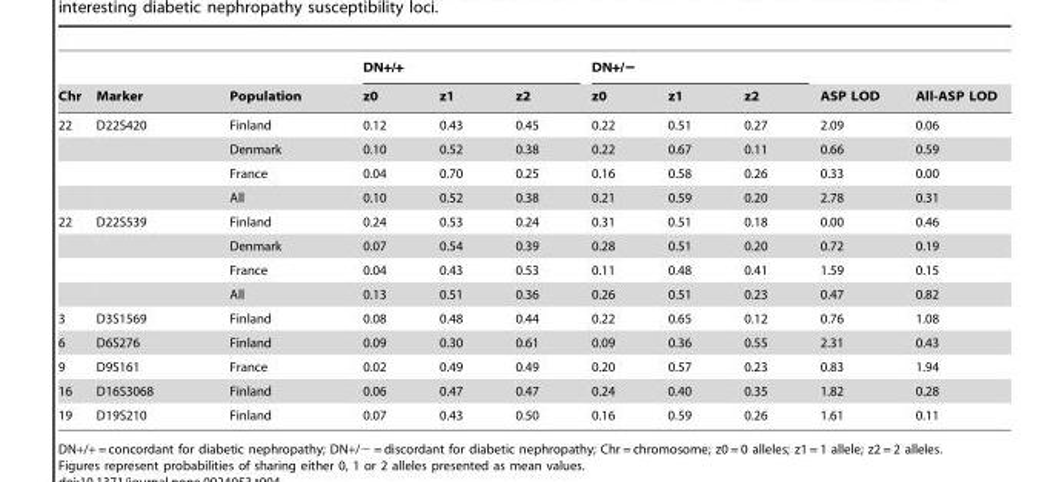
<table><thead><tr><td rowspan="2">Chr</td><td rowspan="2">Marker</td><td rowspan="2">Population</td><td colspan="3">DN+/+</td><td colspan="3">DN+/−</td><td rowspan="2">ASP LOD</td><td rowspan="2">All-ASP LOD</td></tr><tr><td>z0</td><td>z1</td><td>z2</td><td>z0</td><td>z1</td><td>z2</td></tr></thead><tbody><tr><td rowspan="4">22</td><td>D22S420</td><td>Finland</td><td>0.12</td><td>0.43</td><td>0.45</td><td>0.22</td><td>0.51</td><td>0.27</td><td>2.09</td><td>0.06</td></tr><tr><td></td><td>Denmark</td><td>0.10</td><td>0.52</td><td>0.38</td><td>0.22</td><td>0.67</td><td>0.11</td><td>0.66</td><td>0.59</td></tr><tr><td></td><td>France</td><td>0.04</td><td>0.70</td><td>0.25</td><td>0.16</td><td>0.58</td><td>0.26</td><td>0.33</td><td>0.00</td></tr><tr><td></td><td>All</td><td>0.10</td><td>0.52</td><td>0.38</td><td>0.21</td><td>0.59</td><td>0.20</td><td>2.78</td><td>0.31</td></tr><tr><td rowspan="4">22</td><td>D22S539</td><td>Finland</td><td>0.24</td><td>0.53</td><td>0.24</td><td>0.31</td><td>0.51</td><td>0.18</td><td>0.00</td><td>0.46</td></tr><tr><td></td><td>Denmark</td><td>0.07</td><td>0.54</td><td>0.39</td><td>0.28</td><td>0.51</td><td>0.20</td><td>0.72</td><td>0.19</td></tr><tr><td></td><td>France</td><td>0.04</td><td>0.43</td><td>0.53</td><td>0.11</td><td>0.48</td><td>0.41</td><td>1.59</td><td>0.15</td></tr><tr><td></td><td>All</td><td>0.13</td><td>0.51</td><td>0.36</td><td>0.26</td><td>0.51</td><td>0.23</td><td>0.47</td><td>0.82</td></tr><tr><td>3</td><td>D3S1569</td><td>Finland</td><td>0.08</td><td>0.48</td><td>0.44</td><td>0.22</td><td>0.65</td><td>0.12</td><td>0.76</td><td>1.08</td></tr><tr><td>6</td><td>D6S276</td><td>Finland</td><td>0.09</td><td>0.30</td><td>0.61</td><td>0.09</td><td>0.36</td><td>0.55</td><td>2.31</td><td>0.43</td></tr><tr><td>9</td><td>D9S161</td><td>France</td><td>0.02</td><td>0.49</td><td>0.49</td><td>0.20</td><td>0.57</td><td>0.23</td><td>0.83</td><td>1.94</td></tr><tr><td>16</td><td>D16S3068</td><td>Finland</td><td>0.06</td><td>0.47</td><td>0.47</td><td>0.24</td><td>0.40</td><td>0.35</td><td>1.82</td><td>0.28</td></tr><tr><td>19</td><td>D19S210</td><td>Finland</td><td>0.07</td><td>0.43</td><td>0.50</td><td>0.16</td><td>0.59</td><td>0.26</td><td>1.61</td><td>0.11</td></tr></tbody></table>